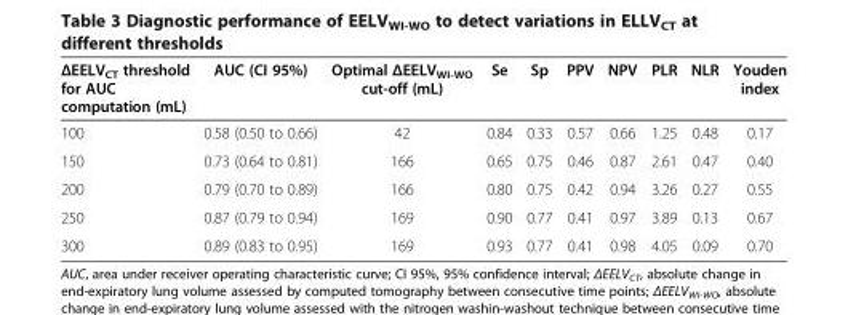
<table><thead><tr><td>ΔEELV<sub>CT</sub> threshold for AUC computation (mL)</td><td>AUC (CI 95%)</td><td>Optimal ΔEELV<sub>WI-WO</sub> cut-off (mL)</td><td>Se</td><td>Sp</td><td>PPV</td><td>NPV</td><td>PLR</td><td>NLR</td><td>Youden index</td></tr></thead><tbody><tr><td>100</td><td>0.58 (0.50 to 0.66)</td><td>42</td><td>0.84</td><td>0.33</td><td>0.57</td><td>0.66</td><td>1.25</td><td>0.48</td><td>0.17</td></tr><tr><td>150</td><td>0.73 (0.64 to 0.81)</td><td>166</td><td>0.65</td><td>0.75</td><td>0.46</td><td>0.87</td><td>2.61</td><td>0.47</td><td>0.40</td></tr><tr><td>200</td><td>0.79 (0.70 to 0.89)</td><td>166</td><td>0.80</td><td>0.75</td><td>0.42</td><td>0.94</td><td>3.26</td><td>0.27</td><td>0.55</td></tr><tr><td>250</td><td>0.87 (0.79 to 0.94)</td><td>169</td><td>0.90</td><td>0.77</td><td>0.41</td><td>0.97</td><td>3.89</td><td>0.13</td><td>0.67</td></tr><tr><td>300</td><td>0.89 (0.83 to 0.95)</td><td>169</td><td>0.93</td><td>0.77</td><td>0.41</td><td>0.98</td><td>4.05</td><td>0.09</td><td>0.70</td></tr></tbody></table>